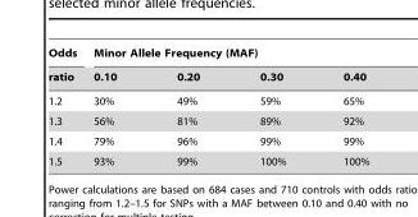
<table><thead><tr><td rowspan="2">Odds ratio</td><td colspan="4">Minor Allele Frequency (MAF)</td></tr><tr><td>0.10</td><td>0.20</td><td>0.30</td><td>0.40</td></tr></thead><tbody><tr><td>1.2</td><td>30%</td><td>49%</td><td>59%</td><td>65%</td></tr><tr><td>1.3</td><td>56%</td><td>81%</td><td>89%</td><td>92%</td></tr><tr><td>1.4</td><td>79%</td><td>96%</td><td>99%</td><td>99%</td></tr><tr><td>1.5</td><td>93%</td><td>99%</td><td>100%</td><td>100%</td></tr></tbody></table>